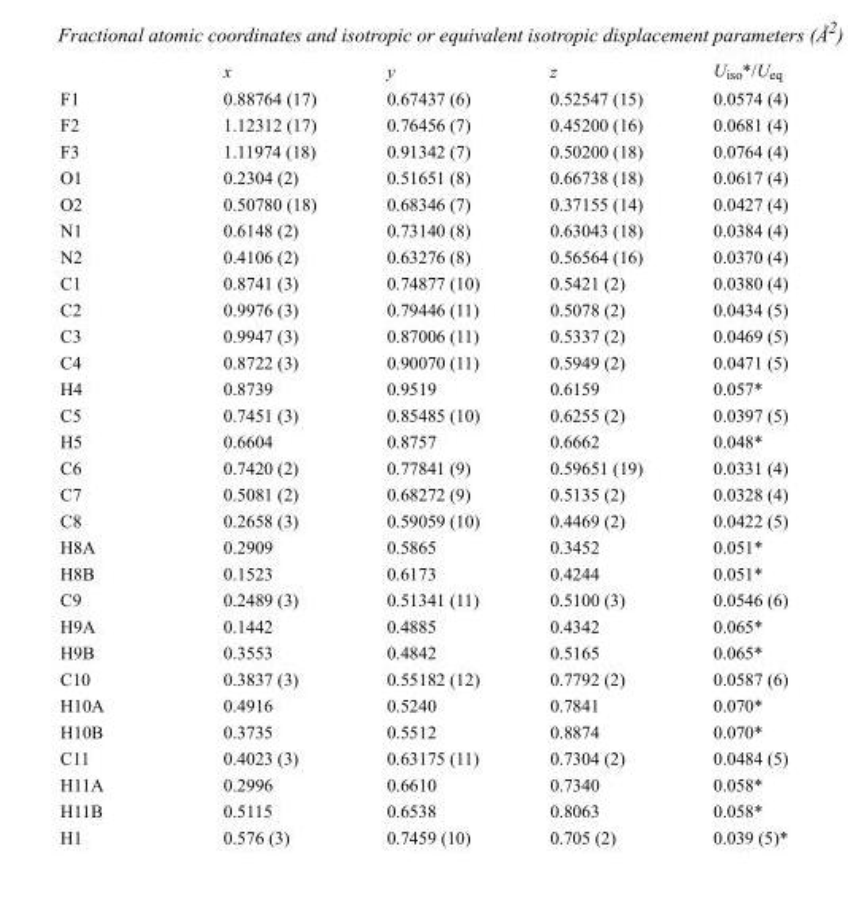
<table><thead><tr><td></td><td>x</td><td>y</td><td>z</td><td>U<sub>iso</sub>*/U<sub>eq</sub></td></tr></thead><tbody><tr><td>F1</td><td>0.88764 (17)</td><td>0.67437 (6)</td><td>0.52547 (15)</td><td>0.0574 (4)</td></tr><tr><td>F2</td><td>1.12312 (17)</td><td>0.76456 (7)</td><td>0.45200 (16)</td><td>0.0681 (4)</td></tr><tr><td>F3</td><td>1.11974 (18)</td><td>0.91342 (7)</td><td>0.50200 (18)</td><td>0.0764 (4)</td></tr><tr><td>O1</td><td>0.2304 (2)</td><td>0.51651 (8)</td><td>0.66738 (18)</td><td>0.0617 (4)</td></tr><tr><td>O2</td><td>0.50780 (18)</td><td>0.68346 (7)</td><td>0.37155 (14)</td><td>0.0427 (4)</td></tr><tr><td>N1</td><td>0.6148 (2)</td><td>0.73140 (8)</td><td>0.63043 (18)</td><td>0.0384 (4)</td></tr><tr><td>N2</td><td>0.4106 (2)</td><td>0.63276 (8)</td><td>0.56564 (16)</td><td>0.0370 (4)</td></tr><tr><td>C1</td><td>0.8741 (3)</td><td>0.74877 (10)</td><td>0.5421 (2)</td><td>0.0380 (4)</td></tr><tr><td>C2</td><td>0.9976 (3)</td><td>0.79446 (11)</td><td>0.5078 (2)</td><td>0.0434 (5)</td></tr><tr><td>C3</td><td>0.9947 (3)</td><td>0.87006 (11)</td><td>0.5337 (2)</td><td>0.0469 (5)</td></tr><tr><td>C4</td><td>0.8722 (3)</td><td>0.90070 (11)</td><td>0.5949 (2)</td><td>0.0471 (5)</td></tr><tr><td>H4</td><td>0.8739</td><td>0.9519</td><td>0.6159</td><td>0.057*</td></tr><tr><td>C5</td><td>0.7451 (3)</td><td>0.85485 (10)</td><td>0.6255 (2)</td><td>0.0397 (5)</td></tr><tr><td>H5</td><td>0.6604</td><td>0.8757</td><td>0.6662</td><td>0.048*</td></tr><tr><td>C6</td><td>0.7420 (2)</td><td>0.77841 (9)</td><td>0.59651 (19)</td><td>0.0331 (4)</td></tr><tr><td>C7</td><td>0.5081 (2)</td><td>0.68272 (9)</td><td>0.5135 (2)</td><td>0.0328 (4)</td></tr><tr><td>C8</td><td>0.2658 (3)</td><td>0.59059 (10)</td><td>0.4469 (2)</td><td>0.0422 (5)</td></tr><tr><td>H8A</td><td>0.2909</td><td>0.5865</td><td>0.3452</td><td>0.051*</td></tr><tr><td>H8B</td><td>0.1523</td><td>0.6173</td><td>0.4244</td><td>0.051*</td></tr><tr><td>C9</td><td>0.2489 (3)</td><td>0.51341 (11)</td><td>0.5100 (3)</td><td>0.0546 (6)</td></tr><tr><td>H9A</td><td>0.1442</td><td>0.4885</td><td>0.4342</td><td>0.065*</td></tr><tr><td>H9B</td><td>0.3553</td><td>0.4842</td><td>0.5165</td><td>0.065*</td></tr><tr><td>C10</td><td>0.3837 (3)</td><td>0.55182 (12)</td><td>0.7792 (2)</td><td>0.0587 (6)</td></tr><tr><td>H10A</td><td>0.4916</td><td>0.5240</td><td>0.7841</td><td>0.070*</td></tr><tr><td>H10B</td><td>0.3735</td><td>0.5512</td><td>0.8874</td><td>0.070*</td></tr><tr><td>C11</td><td>0.4023 (3)</td><td>0.63175 (11)</td><td>0.7304 (2)</td><td>0.0484 (5)</td></tr><tr><td>H11A</td><td>0.2996</td><td>0.6610</td><td>0.7340</td><td>0.058*</td></tr><tr><td>H11B</td><td>0.5115</td><td>0.6538</td><td>0.8063</td><td>0.058*</td></tr><tr><td>H1</td><td>0.576 (3)</td><td>0.7459 (10)</td><td>0.705 (2)</td><td>0.039 (5)*</td></tr></tbody></table>